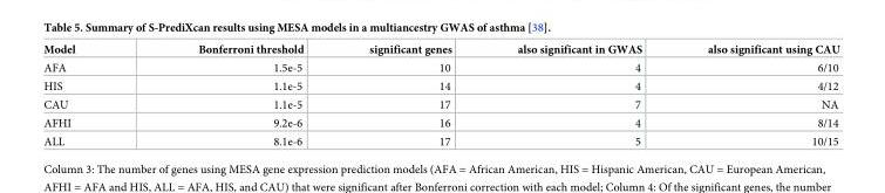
<table><thead><tr><td>Model</td><td>Bonferroni threshold</td><td>significant genes</td><td>also significant in GWAS</td><td>also significant using CAU</td></tr></thead><tbody><tr><td>AFA</td><td>1.5e-5</td><td>10</td><td>4</td><td>6/10</td></tr><tr><td>HIS</td><td>1.1e-5</td><td>14</td><td>4</td><td>4/12</td></tr><tr><td>CAU</td><td>1.1e-5</td><td>17</td><td>7</td><td>NA</td></tr><tr><td>AFHI</td><td>9.2e-6</td><td>16</td><td>4</td><td>8/14</td></tr><tr><td>ALL</td><td>8.1e-6</td><td>17</td><td>5</td><td>10/15</td></tr></tbody></table>